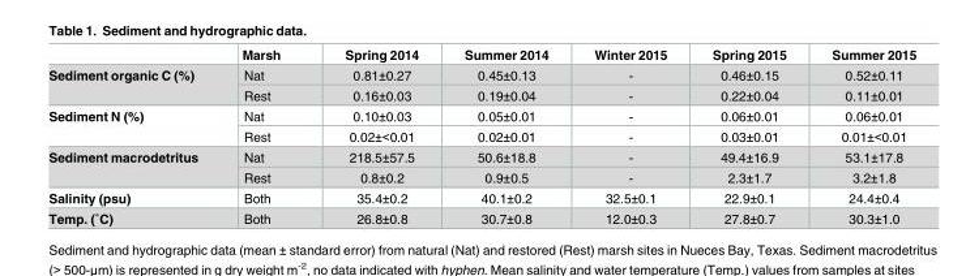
<table><thead><tr><td></td><td>Marsh</td><td>Spring 2014</td><td>Summer 2014</td><td>Winter 2015</td><td>Spring 2015</td><td>Summer 2015</td></tr></thead><tbody><tr><td rowspan="2">Sediment organic C (%)</td><td>Nat</td><td>0.81±0.27</td><td>0.45±0.13</td><td>-</td><td>0.46±0.15</td><td>0.52±0.11</td></tr><tr><td>Rest</td><td>0.16±0.03</td><td>0.19±0.04</td><td>-</td><td>0.22±0.04</td><td>0.11±0.01</td></tr><tr><td rowspan="2">Sediment N (%)</td><td>Nat</td><td>0.10±0.03</td><td>0.05±0.01</td><td>-</td><td>0.06±0.01</td><td>0.06±0.01</td></tr><tr><td>Rest</td><td>0.02±&lt;0.01</td><td>0.02±0.01</td><td>-</td><td>0.03±0.01</td><td>0.01±&lt;0.01</td></tr><tr><td rowspan="2">Sediment macrodetritus</td><td>Nat</td><td>218.5±57.5</td><td>50.6±18.8</td><td>-</td><td>49.4±16.9</td><td>53.1±17.8</td></tr><tr><td>Rest</td><td>0.8±0.2</td><td>0.9±0.5</td><td>-</td><td>2.3±1.7</td><td>3.2±1.8</td></tr><tr><td>Salinity (psu)</td><td>Both</td><td>35.4±0.2</td><td>40.1±0.2</td><td>32.5±0.1</td><td>22.9±0.1</td><td>24.4±0.4</td></tr><tr><td>Temp. (˚C)</td><td>Both</td><td>26.8±0.8</td><td>30.7±0.8</td><td>12.0±0.3</td><td>27.8±0.7</td><td>30.3±1.0</td></tr></tbody></table>